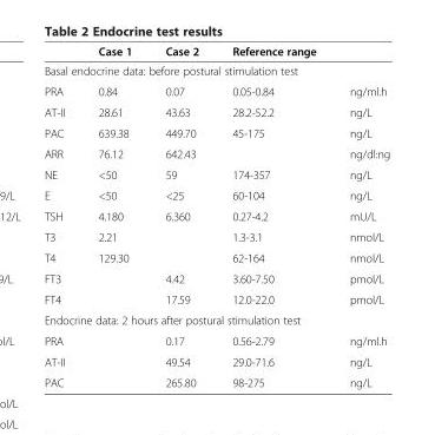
<table><thead><tr><td></td><td>Case 1</td><td>Case 2</td><td>Reference range</td><td></td></tr></thead><tbody><tr><td colspan="5">Basal endocrine data: before postural stimulation test</td></tr><tr><td>PRA</td><td>0.84</td><td>0.07</td><td>0.05-0.84</td><td>ng/ml.h</td></tr><tr><td>AT-II</td><td>28.61</td><td>43.63</td><td>28.2-52.2</td><td>ng/L</td></tr><tr><td>PAC</td><td>639.38</td><td>449.70</td><td>45-175</td><td>ng/L</td></tr><tr><td>ARR</td><td>76.12</td><td>642.43</td><td></td><td>ng/dl:ng</td></tr><tr><td>NE</td><td>&lt;50</td><td>59</td><td>174-357</td><td>ng/L</td></tr><tr><td>E</td><td>&lt;50</td><td>&lt;25</td><td>60-104</td><td>ng/L</td></tr><tr><td>TSH</td><td>4.180</td><td>6.360</td><td>0.27-4.2</td><td>mU/L</td></tr><tr><td>T3</td><td>2.21</td><td></td><td>1.3-3.1</td><td>nmol/L</td></tr><tr><td>T4</td><td>129.30</td><td></td><td>62-164</td><td>nmol/L</td></tr><tr><td>FT3</td><td></td><td>4.42</td><td>3.60-7.50</td><td>pmol/L</td></tr><tr><td>FT4</td><td></td><td>17.59</td><td>12.0-22.0</td><td>pmol/L</td></tr><tr><td colspan="5">Endocrine data: 2 hours after postural stimulation test</td></tr><tr><td>PRA</td><td></td><td>0.17</td><td>0.56-2.79</td><td>ng/ml.h</td></tr><tr><td>AT-II</td><td></td><td>49.54</td><td>29.0-71.6</td><td>ng/L</td></tr><tr><td>PAC</td><td></td><td>265.80</td><td>98-275</td><td>ng/L</td></tr></tbody></table>